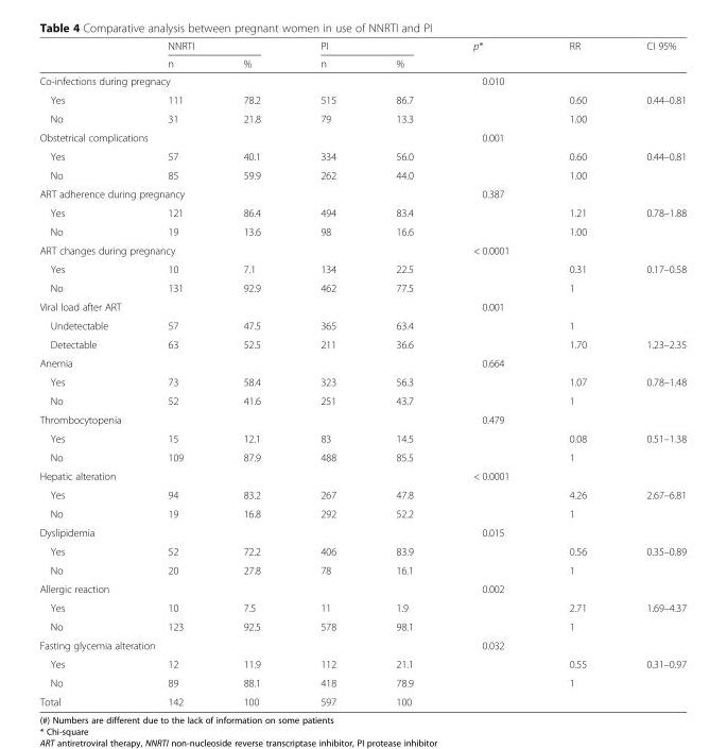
<table><thead><tr><td rowspan="2"></td><td colspan="2">NNRTI</td><td colspan="2">PI</td><td rowspan="2">p*</td><td rowspan="2">RR</td><td rowspan="2">CI 95%</td></tr><tr><td>n</td><td>%</td><td>n</td><td>%</td></tr></thead><tbody><tr><td colspan="5">Co-infections during pregnacy</td><td>0.010</td><td colspan="2"></td></tr><tr><td>Yes</td><td>111</td><td>78.2</td><td>515</td><td>86.7</td><td></td><td>0.60</td><td>0.44–0.81</td></tr><tr><td>No</td><td>31</td><td>21.8</td><td>79</td><td>13.3</td><td></td><td>1.00</td><td></td></tr><tr><td colspan="5">Obstetrical complications</td><td>0.001</td><td colspan="2"></td></tr><tr><td>Yes</td><td>57</td><td>40.1</td><td>334</td><td>56.0</td><td></td><td>0.60</td><td>0.44–0.81</td></tr><tr><td>No</td><td>85</td><td>59.9</td><td>262</td><td>44.0</td><td></td><td>1.00</td><td></td></tr><tr><td colspan="5">ART adherence during pregnancy</td><td>0.387</td><td colspan="2"></td></tr><tr><td>Yes</td><td>121</td><td>86.4</td><td>494</td><td>83.4</td><td></td><td>1.21</td><td>0.78–1.88</td></tr><tr><td>No</td><td>19</td><td>13.6</td><td>98</td><td>16.6</td><td></td><td>1.00</td><td></td></tr><tr><td colspan="5">ART changes during pregnancy</td><td>&lt; 0.0001</td><td colspan="2"></td></tr><tr><td>Yes</td><td>10</td><td>7.1</td><td>134</td><td>22.5</td><td></td><td>0.31</td><td>0.17–0.58</td></tr><tr><td>No</td><td>131</td><td>92.9</td><td>462</td><td>77.5</td><td></td><td>1</td><td></td></tr><tr><td colspan="5">Viral load after ART</td><td>0.001</td><td colspan="2"></td></tr><tr><td>Undetectable</td><td>57</td><td>47.5</td><td>365</td><td>63.4</td><td></td><td>1</td><td></td></tr><tr><td>Detectable</td><td>63</td><td>52.5</td><td>211</td><td>36.6</td><td></td><td>1.70</td><td>1.23–2.35</td></tr><tr><td colspan="5">Anemia</td><td>0.664</td><td colspan="2"></td></tr><tr><td>Yes</td><td>73</td><td>58.4</td><td>323</td><td>56.3</td><td></td><td>1.07</td><td>0.78–1.48</td></tr><tr><td>No</td><td>52</td><td>41.6</td><td>251</td><td>43.7</td><td></td><td>1</td><td></td></tr><tr><td colspan="5">Thrombocytopenia</td><td>0.479</td><td colspan="2"></td></tr><tr><td>Yes</td><td>15</td><td>12.1</td><td>83</td><td>14.5</td><td></td><td>0.08</td><td>0.51–1.38</td></tr><tr><td>No</td><td>109</td><td>87.9</td><td>488</td><td>85.5</td><td></td><td>1</td><td></td></tr><tr><td colspan="5">Hepatic alteration</td><td>&lt; 0.0001</td><td colspan="2"></td></tr><tr><td>Yes</td><td>94</td><td>83.2</td><td>267</td><td>47.8</td><td></td><td>4.26</td><td>2.67–6.81</td></tr><tr><td>No</td><td>19</td><td>16.8</td><td>292</td><td>52.2</td><td></td><td>1</td><td></td></tr><tr><td colspan="5">Dyslipidemia</td><td>0.015</td><td colspan="2"></td></tr><tr><td>Yes</td><td>52</td><td>72.2</td><td>406</td><td>83.9</td><td></td><td>0.56</td><td>0.35–0.89</td></tr><tr><td>No</td><td>20</td><td>27.8</td><td>78</td><td>16.1</td><td></td><td>1</td><td></td></tr><tr><td colspan="5">Allergic reaction</td><td>0.002</td><td colspan="2"></td></tr><tr><td>Yes</td><td>10</td><td>7.5</td><td>11</td><td>1.9</td><td></td><td>2.71</td><td>1.69–4.37</td></tr><tr><td>No</td><td>123</td><td>92.5</td><td>578</td><td>98.1</td><td></td><td>1</td><td></td></tr><tr><td colspan="5">Fasting glycemia alteration</td><td>0.032</td><td colspan="2"></td></tr><tr><td>Yes</td><td>12</td><td>11.9</td><td>112</td><td>21.1</td><td></td><td>0.55</td><td>0.31–0.97</td></tr><tr><td>No</td><td>89</td><td>88.1</td><td>418</td><td>78.9</td><td></td><td>1</td><td></td></tr><tr><td>Total</td><td>142</td><td>100</td><td>597</td><td>100</td><td></td><td></td><td></td></tr></tbody></table>